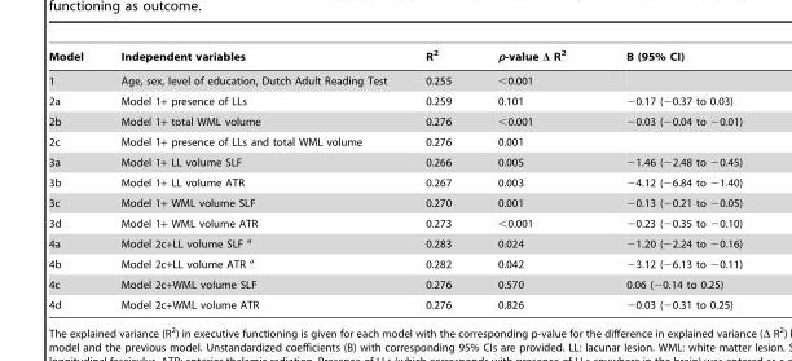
<table><thead><tr><td>Model</td><td>Independent variables</td><td>R<sup>2</sup></td><td>p-value Δ R<sup>2</sup></td><td>B (95% CI)</td></tr></thead><tbody><tr><td>1</td><td>Age, sex, level of education, Dutch Adult Reading Test</td><td>0.255</td><td>&lt;0.001</td><td></td></tr><tr><td>2a</td><td>Model 1+ presence of LLs</td><td>0.259</td><td>0.101</td><td>−0.17 (−0.37 to 0.03)</td></tr><tr><td>2b</td><td>Model 1+ total WML volume</td><td>0.276</td><td>&lt;0.001</td><td>−0.03 (−0.04 to −0.01)</td></tr><tr><td>2c</td><td>Model 1+ presence of LLs and total WML volume</td><td>0.276</td><td>0.001</td><td></td></tr><tr><td>3a</td><td>Model 1+ LL volume SLF</td><td>0.266</td><td>0.005</td><td>−1.46 (−2.48 to −0.45)</td></tr><tr><td>3b</td><td>Model 1+ LL volume ATR</td><td>0.267</td><td>0.003</td><td>−4.12 (−6.84 to −1.40)</td></tr><tr><td>3c</td><td>Model 1+ WML volume SLF</td><td>0.270</td><td>0.001</td><td>−0.13 (−0.21 to −0.05)</td></tr><tr><td>3d</td><td>Model 1+ WML volume ATR</td><td>0.273</td><td>&lt;0.001</td><td>−0.23 (−0.35 to −0.10)</td></tr><tr><td>4a</td><td>Model 2c+LL volume SLF a</td><td>0.283</td><td>0.024</td><td>−1.20 (−2.24 to −0.16)</td></tr><tr><td>4b</td><td>Model 2c+LL volume ATR a</td><td>0.282</td><td>0.042</td><td>−3.12 (−6.13 to −0.11)</td></tr><tr><td>4c</td><td>Model 2c+WML volume SLF</td><td>0.276</td><td>0.570</td><td>0.06 (−0.14 to 0.25)</td></tr><tr><td>4d</td><td>Model 2c+WML volume ATR</td><td>0.276</td><td>0.826</td><td>−0.03 (−0.31 to 0.25)</td></tr></tbody></table>